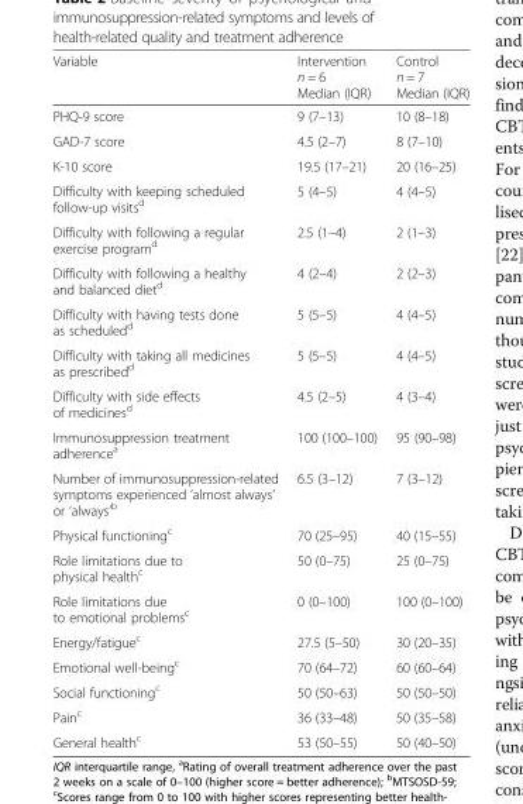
<table><thead><tr><td>Variable</td><td>Intervention n = 6 Median (IQR)</td><td>Control n = 7 Median (IQR)</td></tr></thead><tbody><tr><td>PHQ-9 score</td><td>9 (7–13)</td><td>10 (8–18)</td></tr><tr><td>GAD-7 score</td><td>4.5 (2–7)</td><td>8 (7–10)</td></tr><tr><td>K-10 score</td><td>19.5 (17–21)</td><td>20 (16–25)</td></tr><tr><td>Difficulty with keeping scheduled follow-up visits<sup>d</sup></td><td>5 (4–5)</td><td>4 (4–5)</td></tr><tr><td>Difficulty with following a regular exercise program<sup>d</sup></td><td>2.5 (1–4)</td><td>2 (1–3)</td></tr><tr><td>Difficulty with following a healthy and balanced diet<sup>d</sup></td><td>4 (2–4)</td><td>2 (2–3)</td></tr><tr><td>Difficulty with having tests done as scheduled<sup>d</sup></td><td>5 (5–5)</td><td>4 (4–5)</td></tr><tr><td>Difficulty with taking all medicines as prescribed<sup>d</sup></td><td>5 (5–5)</td><td>4 (4–5)</td></tr><tr><td>Difficulty with side effects of medicines<sup>d</sup></td><td>4.5 (2–5)</td><td>4 (3–4)</td></tr><tr><td>Immunosuppression treatment adherence<sup>a</sup></td><td>100 (100–100)</td><td>95 (90–98)</td></tr><tr><td>Number of immunosuppression-related symptoms experienced ‘almost always’ or ‘always’<sup>b</sup></td><td>6.5 (3–12)</td><td>7 (3–12)</td></tr><tr><td>Physical functioning<sup>c</sup></td><td>70 (25–95)</td><td>40 (15–55)</td></tr><tr><td>Role limitations due to physical health<sup>c</sup></td><td>50 (0–75)</td><td>25 (0–75)</td></tr><tr><td>Role limitations due to emotional problems<sup>c</sup></td><td>0 (0–100)</td><td>100 (0–100)</td></tr><tr><td>Energy/fatigue<sup>c</sup></td><td>27.5 (5–50)</td><td>30 (20–35)</td></tr><tr><td>Emotional well-being<sup>c</sup></td><td>70 (64–72)</td><td>60 (60–64)</td></tr><tr><td>Social functioning<sup>c</sup></td><td>50 (50–63)</td><td>50 (50–50)</td></tr><tr><td>Pain<sup>c</sup></td><td>36 (33–48)</td><td>50 (35–58)</td></tr><tr><td>General health<sup>c</sup></td><td>53 (50–55)</td><td>50 (40–50)</td></tr></tbody></table>